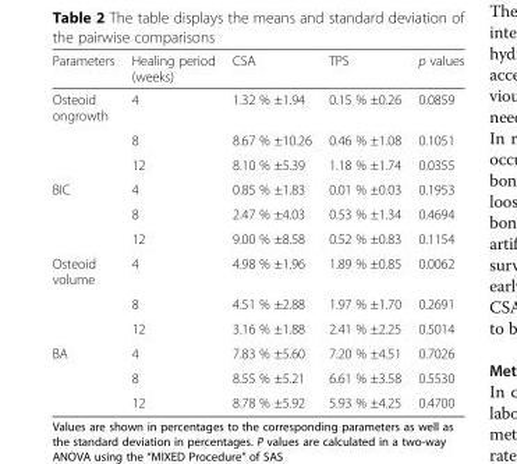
<table><thead><tr><td>Parameters</td><td>Healing period (weeks)</td><td>CSA</td><td>TPS</td><td>p values</td></tr></thead><tbody><tr><td rowspan="3">Osteoid ongrowth</td><td>4</td><td>1.32 % ±1.94</td><td>0.15 % ±0.26</td><td>0.0859</td></tr><tr><td>8</td><td>8.67 % ±10.26</td><td>0.46 % ±1.08</td><td>0.1051</td></tr><tr><td>12</td><td>8.10 % ±5.39</td><td>1.18 % ±1.74</td><td>0.0355</td></tr><tr><td rowspan="3">BIC</td><td>4</td><td>0.85 % ±1.83</td><td>0.01 % ±0.03</td><td>0.1953</td></tr><tr><td>8</td><td>2.47 % ±4.03</td><td>0.53 % ±1.34</td><td>0.4694</td></tr><tr><td>12</td><td>9.00 % ±8.58</td><td>0.52 % ±0.83</td><td>0.1154</td></tr><tr><td rowspan="3">Osteoid volume</td><td>4</td><td>4.98 % ±1.96</td><td>1.89 % ±0.85</td><td>0.0062</td></tr><tr><td>8</td><td>4.51 % ±2.88</td><td>1.97 % ±1.70</td><td>0.2691</td></tr><tr><td>12</td><td>3.16 % ±1.88</td><td>2.41 % ±2.25</td><td>0.5014</td></tr><tr><td rowspan="3">BA</td><td>4</td><td>7.83 % ±5.60</td><td>7.20 % ±4.51</td><td>0.7026</td></tr><tr><td>8</td><td>8.55 % ±5.21</td><td>6.61 % ±3.58</td><td>0.5530</td></tr><tr><td>12</td><td>8.78 % ±5.92</td><td>5.93 % ±4.25</td><td>0.4700</td></tr></tbody></table>